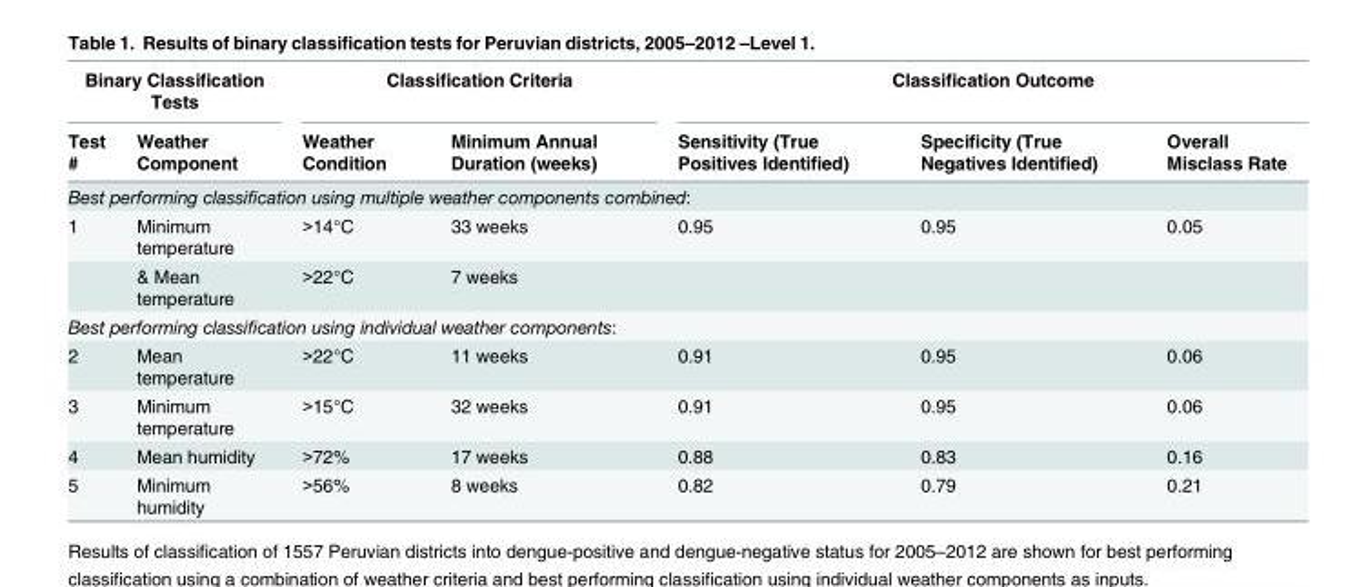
<table><thead><tr><td colspan="2">Binary Classification Tests</td><td colspan="2">Classification Criteria</td><td colspan="3">Classification Outcome</td></tr><tr><td>Test #</td><td>Weather Component</td><td>Weather Condition</td><td>Minimum Annual Duration (weeks)</td><td>Sensitivity (True Positives Identified)</td><td>Specificity (True Negatives Identified)</td><td>Overall Misclass Rate</td></tr></thead><tbody><tr><td colspan="7">Best performing classification using multiple weather components combined:</td></tr><tr><td rowspan="2">1</td><td>Minimum temperature</td><td>&gt;14°C</td><td>33 weeks</td><td>0.95</td><td>0.95</td><td>0.05</td></tr><tr><td>&amp; Mean temperature</td><td>&gt;22°C</td><td>7 weeks</td><td></td><td></td><td></td></tr><tr><td colspan="7">Best performing classification using individual weather components:</td></tr><tr><td>2</td><td>Mean temperature</td><td>&gt;22°C</td><td>11 weeks</td><td>0.91</td><td>0.95</td><td>0.06</td></tr><tr><td>3</td><td>Minimum temperature</td><td>&gt;15°C</td><td>32 weeks</td><td>0.91</td><td>0.95</td><td>0.06</td></tr><tr><td>4</td><td>Mean humidity</td><td>&gt;72%</td><td>17 weeks</td><td>0.88</td><td>0.83</td><td>0.16</td></tr><tr><td>5</td><td>Minimum humidity</td><td>&gt;56%</td><td>8 weeks</td><td>0.82</td><td>0.79</td><td>0.21</td></tr></tbody></table>